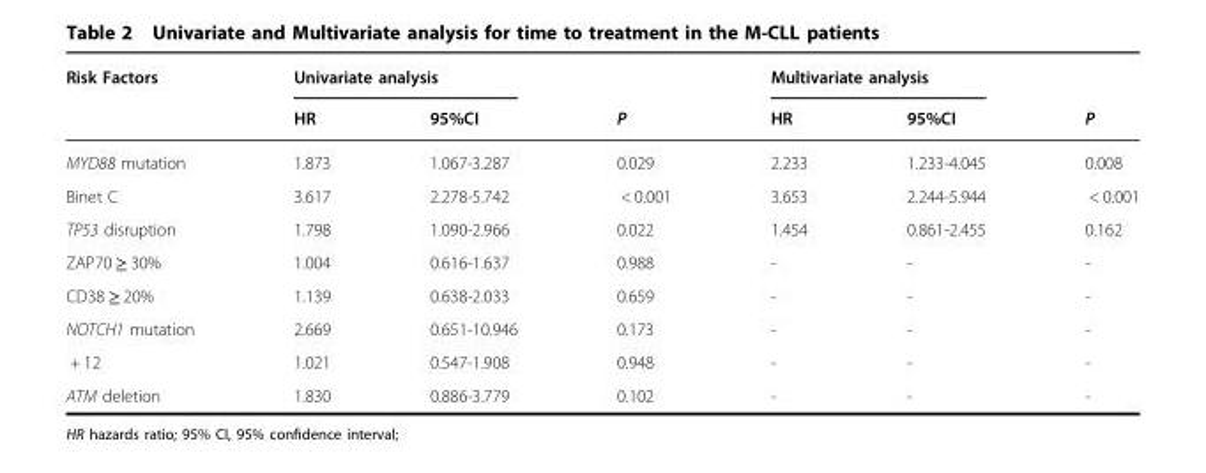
<table><thead><tr><td rowspan="2">Risk Factors</td><td colspan="2">Univariate analysis</td><td rowspan="2">P</td><td colspan="2">Multivariate analysis</td><td rowspan="2">P</td></tr><tr><td>HR</td><td>95%CI</td><td>HR</td><td>95%CI</td></tr></thead><tbody><tr><td>MYD88 mutation</td><td>1.873</td><td>1.067-3.287</td><td>0.029</td><td>2.233</td><td>1.233-4.045</td><td>0.008</td></tr><tr><td>Binet C</td><td>3.617</td><td>2.278-5.742</td><td>&lt; 0.001</td><td>3.653</td><td>2.244-5.944</td><td>&lt; 0.001</td></tr><tr><td>TP53 disruption</td><td>1.798</td><td>1.090-2.966</td><td>0.022</td><td>1.454</td><td>0.861-2.455</td><td>0.162</td></tr><tr><td>ZAP70 ≥ 30%</td><td>1.004</td><td>0.616-1.637</td><td>0.988</td><td>-</td><td>-</td><td>-</td></tr><tr><td>CD38 ≥ 20%</td><td>1.139</td><td>0.638-2.033</td><td>0.659</td><td>-</td><td>-</td><td>-</td></tr><tr><td>NOTCH1 mutation</td><td>2.669</td><td>0.651-10.946</td><td>0.173</td><td>-</td><td>-</td><td>-</td></tr><tr><td>+ 12</td><td>1.021</td><td>0.547-1.908</td><td>0.948</td><td>-</td><td>-</td><td>-</td></tr><tr><td>ATM deletion</td><td>1.830</td><td>0.886-3.779</td><td>0.102</td><td>-</td><td>-</td><td>-</td></tr></tbody></table>